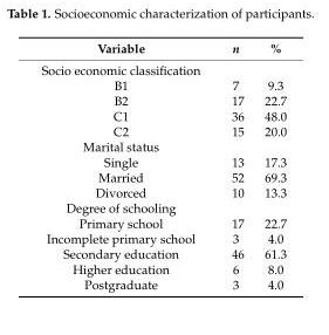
<table><thead><tr><td>Variable</td><td>n</td><td>%</td></tr></thead><tbody><tr><td colspan="3">Socio economic classification</td></tr><tr><td>B1</td><td>7</td><td>9.3</td></tr><tr><td>B2</td><td>17</td><td>22.7</td></tr><tr><td>C1</td><td>36</td><td>48.0</td></tr><tr><td>C2</td><td>15</td><td>20.0</td></tr><tr><td colspan="3">Marital status</td></tr><tr><td>Single</td><td>13</td><td>17.3</td></tr><tr><td>Married</td><td>52</td><td>69.3</td></tr><tr><td>Divorced</td><td>10</td><td>13.3</td></tr><tr><td colspan="3">Degree of schooling</td></tr><tr><td>Primary school</td><td>17</td><td>22.7</td></tr><tr><td>Incomplete primary school</td><td>3</td><td>4.0</td></tr><tr><td>Secondary education</td><td>46</td><td>61.3</td></tr><tr><td>Higher education</td><td>6</td><td>8.0</td></tr><tr><td>Postgraduate</td><td>3</td><td>4.0</td></tr></tbody></table>